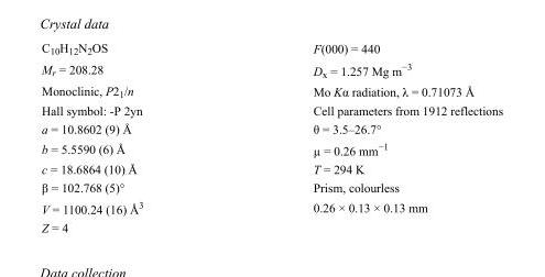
<table><tbody><tr><td>C<sub>10</sub>H<sub>12</sub>N<sub>2</sub>OS</td><td>F(000) = 440</td></tr><tr><td>M<sub>r</sub> = 208.28</td><td>D<sub>x</sub> = 1.257 Mg m<sup>−3</sup></td></tr><tr><td>Monoclinic, P2<sub>1</sub>/n</td><td>Mo Kα radiation, λ = 0.71073 Å</td></tr><tr><td>Hall symbol: -P 2yn</td><td>Cell parameters from 1912 reflections</td></tr><tr><td>a = 10.8602 (9) Å</td><td>θ = 3.5–26.7°</td></tr><tr><td>b = 5.5590 (6) Å</td><td>µ = 0.26 mm<sup>−1</sup></td></tr><tr><td>c = 18.6864 (10) Å</td><td>T = 294 K</td></tr><tr><td>β = 102.768 (5)°</td><td>Prism, colourless</td></tr><tr><td>V = 1100.24 (16) Å<sup>3</sup></td><td>0.26 × 0.13 × 0.13 mm</td></tr><tr><td>Z = 4</td><td></td></tr></tbody></table>